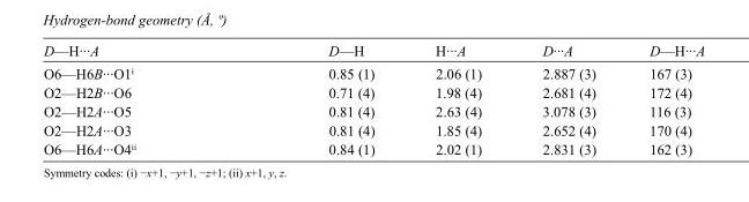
<table><tbody><tr><td>D—H···A</td><td>D—H</td><td>H···A</td><td>D···A</td><td>D—H···A</td></tr><tr><td>O6—H6B···O1<sup>i</sup></td><td>0.85 (1)</td><td>2.06 (1)</td><td>2.887 (3)</td><td>167 (3)</td></tr><tr><td>O2—H2B···O6</td><td>0.71 (4)</td><td>1.98 (4)</td><td>2.681 (4)</td><td>172 (4)</td></tr><tr><td>O2—H2A···O5</td><td>0.81 (4)</td><td>2.63 (4)</td><td>3.078 (3)</td><td>116 (3)</td></tr><tr><td>O2—H2A···O3</td><td>0.81 (4)</td><td>1.85 (4)</td><td>2.652 (4)</td><td>170 (4)</td></tr><tr><td>O6—H6A···O4<sup>ii</sup></td><td>0.84 (1)</td><td>2.02 (1)</td><td>2.831 (3)</td><td>162 (3)</td></tr></tbody></table>